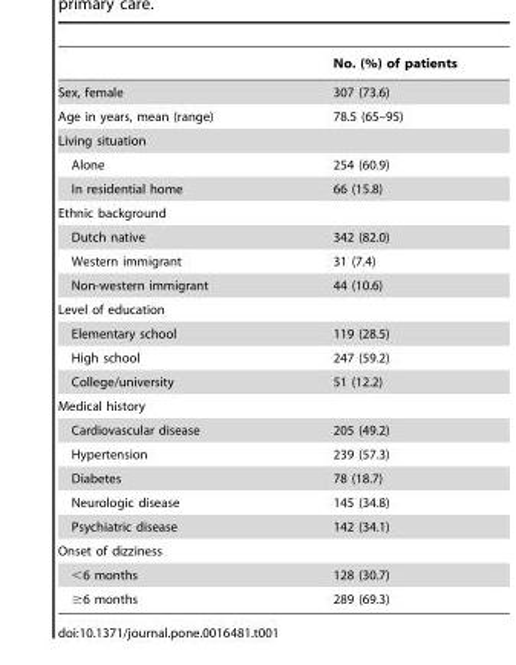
<table><thead><tr><td></td><td>No. (%) of patients</td></tr></thead><tbody><tr><td>Sex, female</td><td>307 (73.6)</td></tr><tr><td>Age in years, mean (range)</td><td>78.5 (65–95)</td></tr><tr><td colspan="2">Living situation</td></tr><tr><td>Alone</td><td>254 (60.9)</td></tr><tr><td>In residential home</td><td>66 (15.8)</td></tr><tr><td colspan="2">Ethnic background</td></tr><tr><td>Dutch native</td><td>342 (82.0)</td></tr><tr><td>Western immigrant</td><td>31 (7.4)</td></tr><tr><td>Non-western immigrant</td><td>44 (10.6)</td></tr><tr><td colspan="2">Level of education</td></tr><tr><td>Elementary school</td><td>119 (28.5)</td></tr><tr><td>High school</td><td>247 (59.2)</td></tr><tr><td>College/university</td><td>51 (12.2)</td></tr><tr><td colspan="2">Medical history</td></tr><tr><td>Cardiovascular disease</td><td>205 (49.2)</td></tr><tr><td>Hypertension</td><td>239 (57.3)</td></tr><tr><td>Diabetes</td><td>78 (18.7)</td></tr><tr><td>Neurologic disease</td><td>145 (34.8)</td></tr><tr><td>Psychiatric disease</td><td>142 (34.1)</td></tr><tr><td colspan="2">Onset of dizziness</td></tr><tr><td>&lt;6 months</td><td>128 (30.7)</td></tr><tr><td>≥6 months</td><td>289 (69.3)</td></tr></tbody></table>